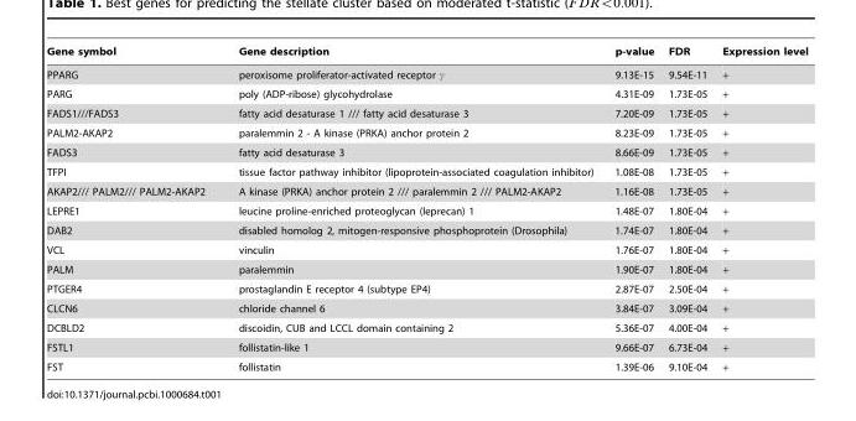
<table><thead><tr><td>Gene symbol</td><td>Gene description</td><td>p-value</td><td>FDR</td><td>Expression level</td></tr></thead><tbody><tr><td>PPARG</td><td>peroxisome proliferator-activated receptor c</td><td>9.13E-15</td><td>9.54E-11</td><td>+</td></tr><tr><td>PARG</td><td>poly (ADP-ribose) glycohydrolase</td><td>4.31E-09</td><td>1.73E-05</td><td>+</td></tr><tr><td>FADS1///FADS3</td><td>fatty acid desaturase 1 /// fatty acid desaturase 3</td><td>7.20E-09</td><td>1.73E-05</td><td>+</td></tr><tr><td>PALM2-AKAP2</td><td>paralemmin 2 - A kinase (PRKA) anchor protein 2</td><td>8.23E-09</td><td>1.73E-05</td><td>+</td></tr><tr><td>FADS3</td><td>fatty acid desaturase 3</td><td>8.66E-09</td><td>1.73E-05</td><td>+</td></tr><tr><td>TFPI</td><td>tissue factor pathway inhibitor (lipoprotein-associated coagulation inhibitor)</td><td>1.08E-08</td><td>1.73E-05</td><td>+</td></tr><tr><td>AKAP2/// PALM2/// PALM2-AKAP2</td><td>A kinase (PRKA) anchor protein 2 /// paralemmin 2 /// PALM2-AKAP2</td><td>1.16E-08</td><td>1.73E-05</td><td>+</td></tr><tr><td>LEPRE1</td><td>leucine proline-enriched proteoglycan (leprecan) 1</td><td>1.48E-07</td><td>1.80E-04</td><td>+</td></tr><tr><td>DAB2</td><td>disabled homolog 2, mitogen-responsive phosphoprotein (Drosophila)</td><td>1.74E-07</td><td>1.80E-04</td><td>+</td></tr><tr><td>VCL</td><td>vinculin</td><td>1.76E-07</td><td>1.80E-04</td><td>+</td></tr><tr><td>PALM</td><td>paralemmin</td><td>1.90E-07</td><td>1.80E-04</td><td>+</td></tr><tr><td>PTGER4</td><td>prostaglandin E receptor 4 (subtype EP4)</td><td>2.87E-07</td><td>2.50E-04</td><td>+</td></tr><tr><td>CLCN6</td><td>chloride channel 6</td><td>3.84E-07</td><td>3.09E-04</td><td>+</td></tr><tr><td>DCBLD2</td><td>discoidin, CUB and LCCL domain containing 2</td><td>5.36E-07</td><td>4.00E-04</td><td>+</td></tr><tr><td>FSTL1</td><td>follistatin-like 1</td><td>9.66E-07</td><td>6.73E-04</td><td>+</td></tr><tr><td>FST</td><td>follistatin</td><td>1.39E-06</td><td>9.10E-04</td><td>+</td></tr></tbody></table>